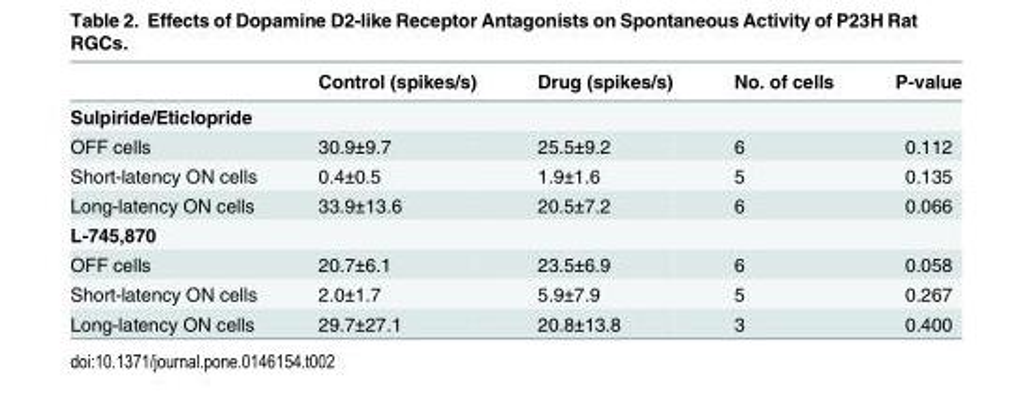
<table><thead><tr><td></td><td>Control (spikes/s)</td><td>Drug (spikes/s)</td><td>No. of cells</td><td>P-value</td></tr></thead><tbody><tr><td colspan="5">Sulpiride/Eticlopride</td></tr><tr><td>OFF cells</td><td>30.9±9.7</td><td>25.5±9.2</td><td>6</td><td>0.112</td></tr><tr><td>Short-latency ON cells</td><td>0.4±0.5</td><td>1.9±1.6</td><td>5</td><td>0.135</td></tr><tr><td>Long-latency ON cells</td><td>33.9±13.6</td><td>20.5±7.2</td><td>6</td><td>0.066</td></tr><tr><td colspan="5">L-745,870</td></tr><tr><td>OFF cells</td><td>20.7±6.1</td><td>23.5±6.9</td><td>6</td><td>0.058</td></tr><tr><td>Short-latency ON cells</td><td>2.0±1.7</td><td>5.9±7.9</td><td>5</td><td>0.267</td></tr><tr><td>Long-latency ON cells</td><td>29.7±27.1</td><td>20.8±13.8</td><td>3</td><td>0.400</td></tr></tbody></table>